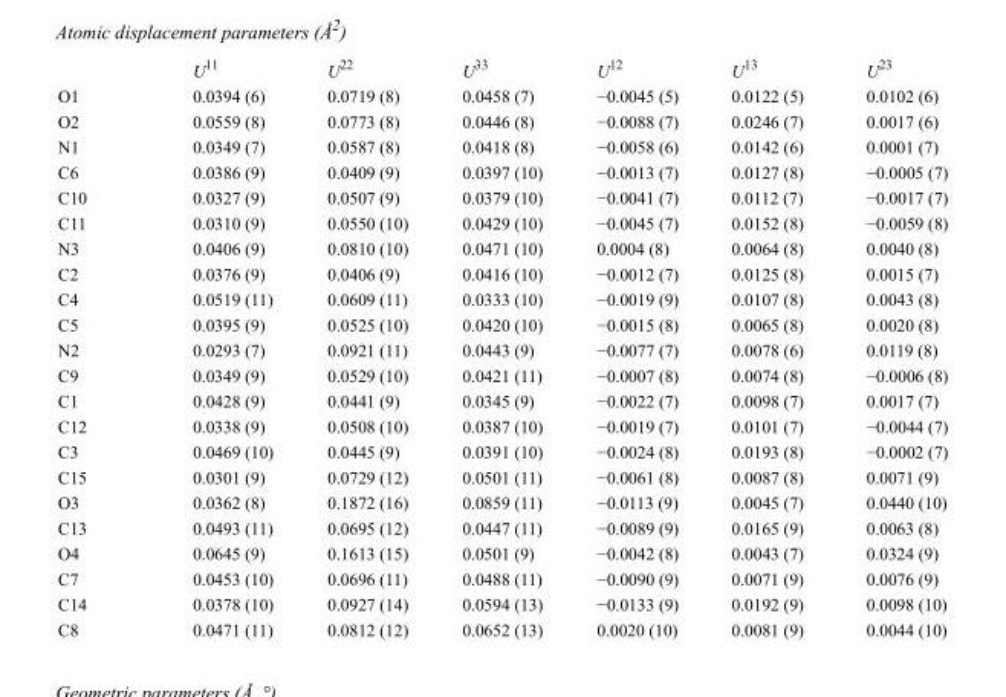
<table><thead><tr><td></td><td>U<sup>11</sup></td><td>U<sup>22</sup></td><td>U<sup>33</sup></td><td>U<sup>12</sup></td><td>U<sup>13</sup></td><td>U<sup>23</sup></td></tr></thead><tbody><tr><td>O1</td><td>0.0394 (6)</td><td>0.0719 (8)</td><td>0.0458 (7)</td><td>−0.0045 (5)</td><td>0.0122 (5)</td><td>0.0102 (6)</td></tr><tr><td>O2</td><td>0.0559 (8)</td><td>0.0773 (8)</td><td>0.0446 (8)</td><td>−0.0088 (7)</td><td>0.0246 (7)</td><td>0.0017 (6)</td></tr><tr><td>N1</td><td>0.0349 (7)</td><td>0.0587 (8)</td><td>0.0418 (8)</td><td>−0.0058 (6)</td><td>0.0142 (6)</td><td>0.0001 (7)</td></tr><tr><td>C6</td><td>0.0386 (9)</td><td>0.0409 (9)</td><td>0.0397 (10)</td><td>−0.0013 (7)</td><td>0.0127 (8)</td><td>−0.0005 (7)</td></tr><tr><td>C10</td><td>0.0327 (9)</td><td>0.0507 (9)</td><td>0.0379 (10)</td><td>−0.0041 (7)</td><td>0.0112 (7)</td><td>−0.0017 (7)</td></tr><tr><td>C11</td><td>0.0310 (9)</td><td>0.0550 (10)</td><td>0.0429 (10)</td><td>−0.0045 (7)</td><td>0.0152 (8)</td><td>−0.0059 (8)</td></tr><tr><td>N3</td><td>0.0406 (9)</td><td>0.0810 (10)</td><td>0.0471 (10)</td><td>0.0004 (8)</td><td>0.0064 (8)</td><td>0.0040 (8)</td></tr><tr><td>C2</td><td>0.0376 (9)</td><td>0.0406 (9)</td><td>0.0416 (10)</td><td>−0.0012 (7)</td><td>0.0125 (8)</td><td>0.0015 (7)</td></tr><tr><td>C4</td><td>0.0519 (11)</td><td>0.0609 (11)</td><td>0.0333 (10)</td><td>−0.0019 (9)</td><td>0.0107 (8)</td><td>0.0043 (8)</td></tr><tr><td>C5</td><td>0.0395 (9)</td><td>0.0525 (10)</td><td>0.0420 (10)</td><td>−0.0015 (8)</td><td>0.0065 (8)</td><td>0.0020 (8)</td></tr><tr><td>N2</td><td>0.0293 (7)</td><td>0.0921 (11)</td><td>0.0443 (9)</td><td>−0.0077 (7)</td><td>0.0078 (6)</td><td>0.0119 (8)</td></tr><tr><td>C9</td><td>0.0349 (9)</td><td>0.0529 (10)</td><td>0.0421 (11)</td><td>−0.0007 (8)</td><td>0.0074 (8)</td><td>−0.0006 (8)</td></tr><tr><td>C1</td><td>0.0428 (9)</td><td>0.0441 (9)</td><td>0.0345 (9)</td><td>−0.0022 (7)</td><td>0.0098 (7)</td><td>0.0017 (7)</td></tr><tr><td>C12</td><td>0.0338 (9)</td><td>0.0508 (10)</td><td>0.0387 (10)</td><td>−0.0019 (7)</td><td>0.0101 (7)</td><td>−0.0044 (7)</td></tr><tr><td>C3</td><td>0.0469 (10)</td><td>0.0445 (9)</td><td>0.0391 (10)</td><td>−0.0024 (8)</td><td>0.0193 (8)</td><td>−0.0002 (7)</td></tr><tr><td>C15</td><td>0.0301 (9)</td><td>0.0729 (12)</td><td>0.0501 (11)</td><td>−0.0061 (8)</td><td>0.0087 (8)</td><td>0.0071 (9)</td></tr><tr><td>O3</td><td>0.0362 (8)</td><td>0.1872 (16)</td><td>0.0859 (11)</td><td>−0.0113 (9)</td><td>0.0045 (7)</td><td>0.0440 (10)</td></tr><tr><td>C13</td><td>0.0493 (11)</td><td>0.0695 (12)</td><td>0.0447 (11)</td><td>−0.0089 (9)</td><td>0.0165 (9)</td><td>0.0063 (8)</td></tr><tr><td>O4</td><td>0.0645 (9)</td><td>0.1613 (15)</td><td>0.0501 (9)</td><td>−0.0042 (8)</td><td>0.0043 (7)</td><td>0.0324 (9)</td></tr><tr><td>C7</td><td>0.0453 (10)</td><td>0.0696 (11)</td><td>0.0488 (11)</td><td>−0.0090 (9)</td><td>0.0071 (9)</td><td>0.0076 (9)</td></tr><tr><td>C14</td><td>0.0378 (10)</td><td>0.0927 (14)</td><td>0.0594 (13)</td><td>−0.0133 (9)</td><td>0.0192 (9)</td><td>0.0098 (10)</td></tr><tr><td>C8</td><td>0.0471 (11)</td><td>0.0812 (12)</td><td>0.0652 (13)</td><td>0.0020 (10)</td><td>0.0081 (9)</td><td>0.0044 (10)</td></tr></tbody></table>